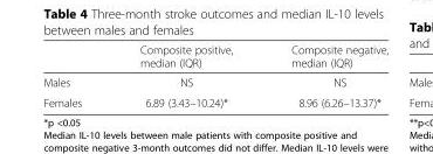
<table><thead><tr><td></td><td>Composite positive, median (IQR)</td><td>Composite negative, median (IQR)</td></tr></thead><tbody><tr><td>Males</td><td>NS</td><td>NS</td></tr><tr><td>Females</td><td>6.89 (3.43–10.24)*</td><td>8.96 (6.26–13.37)*</td></tr></tbody></table>